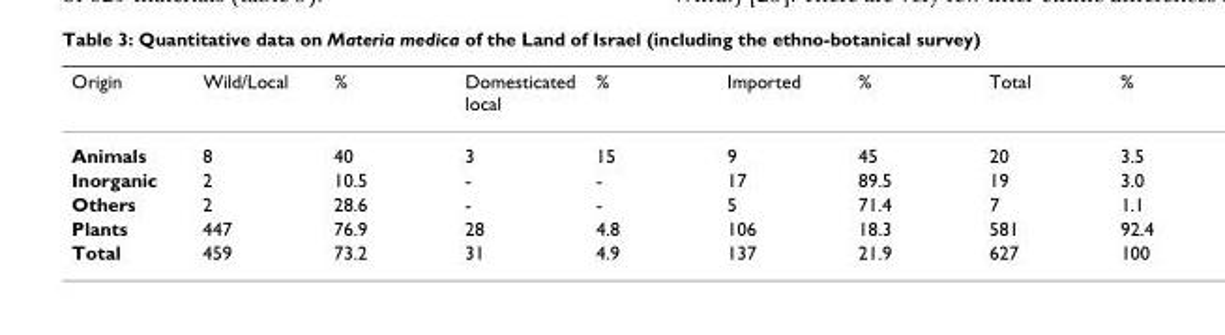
<table><thead><tr><td>Origin</td><td>Wild/Local</td><td>%</td><td>Domesticated local</td><td>%</td><td>Imported</td><td>%</td><td>Total</td><td>%</td></tr></thead><tbody><tr><td>Animals</td><td>8</td><td>40</td><td>3</td><td>15</td><td>9</td><td>45</td><td>20</td><td>3.5</td></tr><tr><td>Inorganic</td><td>2</td><td>10.5</td><td>-</td><td>-</td><td>17</td><td>89.5</td><td>19</td><td>3.0</td></tr><tr><td>Others</td><td>2</td><td>28.6</td><td>-</td><td>-</td><td>5</td><td>71.4</td><td>7</td><td>1.1</td></tr><tr><td>Plants</td><td>447</td><td>76.9</td><td>28</td><td>4.8</td><td>106</td><td>18.3</td><td>581</td><td>92.4</td></tr><tr><td>Total</td><td>459</td><td>73.2</td><td>31</td><td>4.9</td><td>137</td><td>21.9</td><td>627</td><td>100</td></tr></tbody></table>